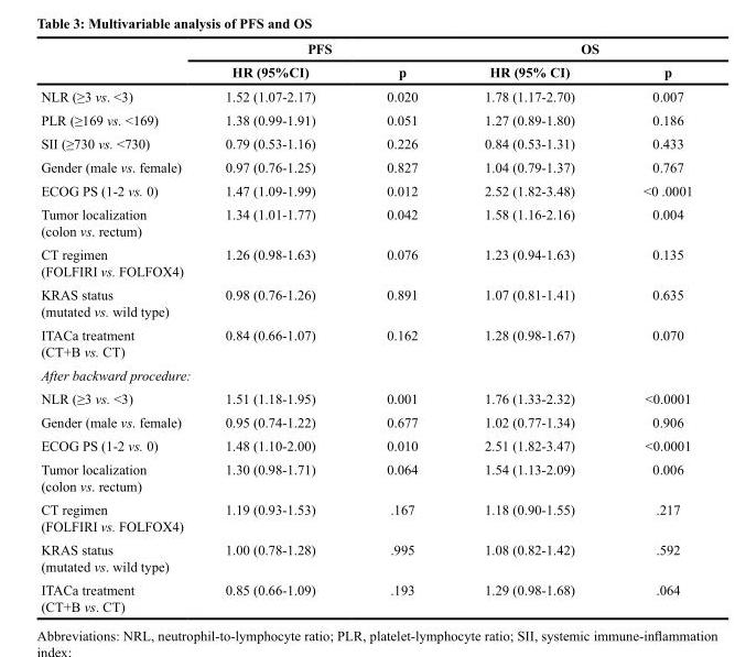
<table><thead><tr><td rowspan="2"></td><td colspan="2">PFS</td><td colspan="2">OS</td></tr><tr><td>HR (95%CI)</td><td>p</td><td>HR (95% CI)</td><td>p</td></tr></thead><tbody><tr><td>NLR (≥3 vs. &lt;3)</td><td>1.52 (1.07-2.17)</td><td>0.020</td><td>1.78 (1.17-2.70)</td><td>0.007</td></tr><tr><td>PLR (≥169 vs. &lt;169)</td><td>1.38 (0.99-1.91)</td><td>0.051</td><td>1.27 (0.89-1.80)</td><td>0.186</td></tr><tr><td>SII (≥730 vs. &lt;730)</td><td>0.79 (0.53-1.16)</td><td>0.226</td><td>0.84 (0.53-1.31)</td><td>0.433</td></tr><tr><td>Gender (male vs. female)</td><td>0.97 (0.76-1.25)</td><td>0.827</td><td>1.04 (0.79-1.37)</td><td>0.767</td></tr><tr><td>ECOG PS (1-2 vs. 0)</td><td>1.47 (1.09-1.99)</td><td>0.012</td><td>2.52 (1.82-3.48)</td><td>&lt;0 .0001</td></tr><tr><td>Tumor localization (colon vs. rectum)</td><td>1.34 (1.01-1.77)</td><td>0.042</td><td>1.58 (1.16-2.16)</td><td>0.004</td></tr><tr><td>CT regimen (FOLFIRI vs. FOLFOX4)</td><td>1.26 (0.98-1.63)</td><td>0.076</td><td>1.23 (0.94-1.63)</td><td>0.135</td></tr><tr><td>KRAS status (mutated vs. wild type)</td><td>0.98 (0.76-1.26)</td><td>0.891</td><td>1.07 (0.81-1.41)</td><td>0.635</td></tr><tr><td>ITACa treatment (CT+B vs. CT)</td><td>0.84 (0.66-1.07)</td><td>0.162</td><td>1.28 (0.98-1.67)</td><td>0.070</td></tr><tr><td colspan="5">After backward procedure:</td></tr><tr><td>NLR (≥3 vs. &lt;3)</td><td>1.51 (1.18-1.95)</td><td>0.001</td><td>1.76 (1.33-2.32)</td><td>&lt;0.0001</td></tr><tr><td>Gender (male vs. female)</td><td>0.95 (0.74-1.22)</td><td>0.677</td><td>1.02 (0.77-1.34)</td><td>0.906</td></tr><tr><td>ECOG PS (1-2 vs. 0)</td><td>1.48 (1.10-2.00)</td><td>0.010</td><td>2.51 (1.82-3.47)</td><td>&lt;0.0001</td></tr><tr><td>Tumor localization (colon vs. rectum)</td><td>1.30 (0.98-1.71)</td><td>0.064</td><td>1.54 (1.13-2.09)</td><td>0.006</td></tr><tr><td>CT regimen (FOLFIRI vs. FOLFOX4)</td><td>1.19 (0.93-1.53)</td><td>.167</td><td>1.18 (0.90-1.55)</td><td>.217</td></tr><tr><td>KRAS status (mutated vs. wild type)</td><td>1.00 (0.78-1.28)</td><td>.995</td><td>1.08 (0.82-1.42)</td><td>.592</td></tr><tr><td>ITACa treatment (CT+B vs. CT)</td><td>0.85 (0.66-1.09)</td><td>.193</td><td>1.29 (0.98-1.68)</td><td>.064</td></tr></tbody></table>